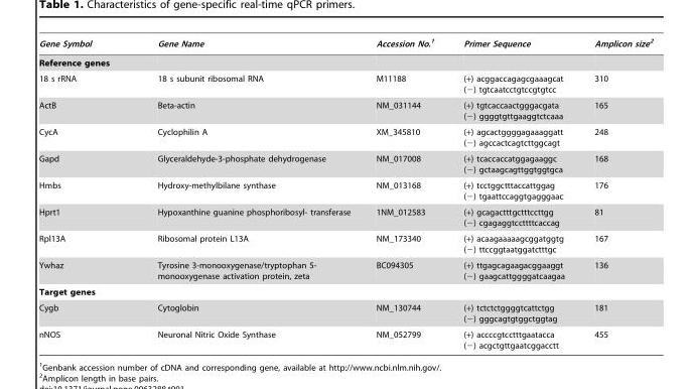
<table><thead><tr><td>Gene Symbol</td><td>Gene Name</td><td>Accession No.1</td><td>Primer Sequence</td><td>Amplicon size2</td></tr></thead><tbody><tr><td colspan="5">Reference genes</td></tr><tr><td>18 s rRNA</td><td>18 s subunit ribosomal RNA</td><td>M11188</td><td>(+) acggaccagagcgaaagcat (−) tgtcaatcctgtccgtgtcc</td><td>310</td></tr><tr><td>ActB</td><td>Beta-actin</td><td>NM_031144</td><td>(+) tgtcaccaactgggacgata (−) ggggtgttgaaggtctcaaa</td><td>165</td></tr><tr><td>CycA</td><td>Cyclophilin A</td><td>XM_345810</td><td>(+) agcactggggagaaaggatt (−) agccactcagtcttggcagt</td><td>248</td></tr><tr><td>Gapd</td><td>Glyceraldehyde-3-phosphate dehydrogenase</td><td>NM_017008</td><td>(+) tcaccaccatggagaaggc (−) gctaagcagttggtggtgca</td><td>168</td></tr><tr><td>Hmbs</td><td>Hydroxy-methylbilane synthase</td><td>NM_013168</td><td>(+) tcctggctttaccattggag (−) tgaattccaggtgagggaac</td><td>176</td></tr><tr><td>Hprt1</td><td>Hypoxanthine guanine phosphoribosyl- transferase</td><td>1NM_012583</td><td>(+) gcagactttgctttccttgg (−) cgagaggtccttttcaccag</td><td>81</td></tr><tr><td>Rpl13A</td><td>Ribosomal protein L13A</td><td>NM_173340</td><td>(+) acaagaaaaagcggatggtg (−) ttccggtaatggatctttgc</td><td>167</td></tr><tr><td>Ywhaz</td><td>Tyrosine 3-monooxygenase/tryptophan 5- monooxygenase activation protein, zeta</td><td>BC094305</td><td>(+) ttgagcagaagacggaaggt (−) gaagcattggggatcaagaa</td><td>136</td></tr><tr><td colspan="5">Target genes</td></tr><tr><td>Cygb</td><td>Cytoglobin</td><td>NM_130744</td><td>(+) tctctctggggtcattctgg (−) gggcagtgtggctggtag</td><td>181</td></tr><tr><td>nNOS</td><td>Neuronal Nitric Oxide Synthase</td><td>NM_052799</td><td>(+) accccgtcctttgaatacca (−) acgctgttgaatcggacctt</td><td>455</td></tr></tbody></table>